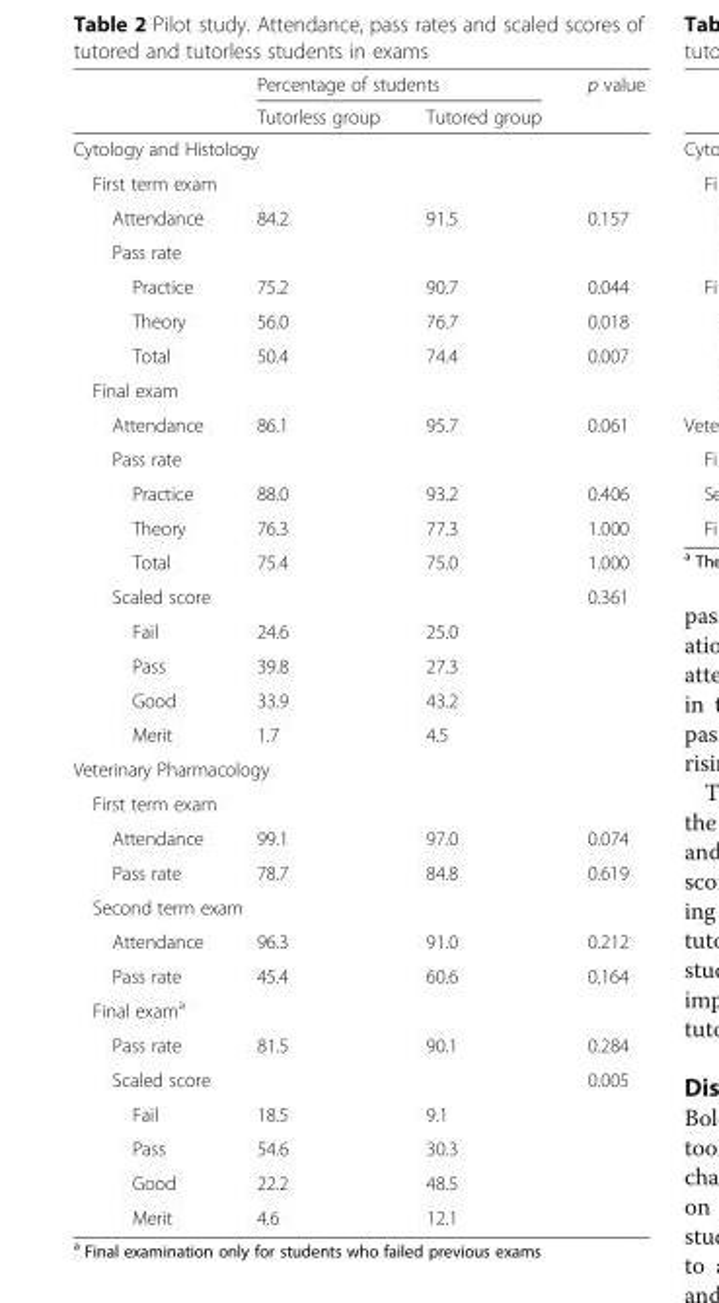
<table><thead><tr><td rowspan="2"></td><td colspan="2">Percentage of students</td><td rowspan="2">p value</td></tr><tr><td>Tutorless group</td><td>Tutored group</td></tr></thead><tbody><tr><td colspan="4">Cytology and Histology</td></tr><tr><td colspan="4">First term exam</td></tr><tr><td>Attendance</td><td>84.2</td><td>91.5</td><td>0.157</td></tr><tr><td colspan="4">Pass rate</td></tr><tr><td>Practice</td><td>75.2</td><td>90.7</td><td>0.044</td></tr><tr><td>Theory</td><td>56.0</td><td>76.7</td><td>0.018</td></tr><tr><td>Total</td><td>50.4</td><td>74.4</td><td>0.007</td></tr><tr><td colspan="4">Final exam</td></tr><tr><td>Attendance</td><td>86.1</td><td>95.7</td><td>0.061</td></tr><tr><td colspan="4">Pass rate</td></tr><tr><td>Practice</td><td>88.0</td><td>93.2</td><td>0.406</td></tr><tr><td>Theory</td><td>76.3</td><td>77.3</td><td>1.000</td></tr><tr><td>Total</td><td>75.4</td><td>75.0</td><td>1.000</td></tr><tr><td>Scaled score</td><td></td><td></td><td>0.361</td></tr><tr><td>Fail</td><td>24.6</td><td>25.0</td><td></td></tr><tr><td>Pass</td><td>39.8</td><td>27.3</td><td></td></tr><tr><td>Good</td><td>33.9</td><td>43.2</td><td></td></tr><tr><td>Merit</td><td>1.7</td><td>4.5</td><td></td></tr><tr><td colspan="4">Veterinary Pharmacology</td></tr><tr><td colspan="4">First term exam</td></tr><tr><td>Attendance</td><td>99.1</td><td>97.0</td><td>0.074</td></tr><tr><td>Pass rate</td><td>78.7</td><td>84.8</td><td>0.619</td></tr><tr><td colspan="4">Second term exam</td></tr><tr><td>Attendance</td><td>96.3</td><td>91.0</td><td>0.212</td></tr><tr><td>Pass rate</td><td>45.4</td><td>60.6</td><td>0.164</td></tr><tr><td colspan="4">Final exam<sup>a</sup></td></tr><tr><td>Pass rate</td><td>81.5</td><td>90.1</td><td>0.284</td></tr><tr><td>Scaled score</td><td></td><td></td><td>0.005</td></tr><tr><td>Fail</td><td>18.5</td><td>9.1</td><td></td></tr><tr><td>Pass</td><td>54.6</td><td>30.3</td><td></td></tr><tr><td>Good</td><td>22.2</td><td>48.5</td><td></td></tr><tr><td>Merit</td><td>4.6</td><td>12.1</td><td></td></tr></tbody></table>